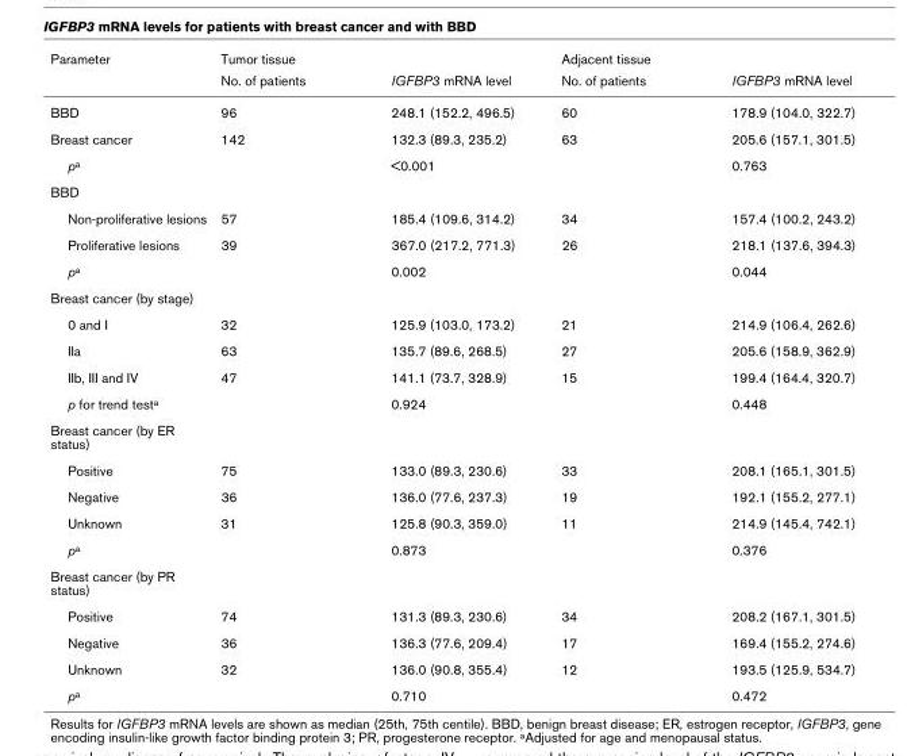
<table><thead><tr><td rowspan="2">Parameter</td><td colspan="2">Tumor tissue</td><td colspan="2">Adjacent tissue</td></tr><tr><td>No. of patients</td><td>IGFBP3 mRNA level</td><td>No. of patients</td><td>IGFBP3 mRNA level</td></tr></thead><tbody><tr><td>BBD</td><td>96</td><td>248.1 (152.2, 496.5)</td><td>60</td><td>178.9 (104.0, 322.7)</td></tr><tr><td>Breast cancer</td><td>142</td><td>132.3 (89.3, 235.2)</td><td>63</td><td>205.6 (157.1, 301.5)</td></tr><tr><td>pa</td><td></td><td>&lt;0.001</td><td></td><td>0.763</td></tr><tr><td colspan="5">BBD</td></tr><tr><td>Non-proliferative lesions</td><td>57</td><td>185.4 (109.6, 314.2)</td><td>34</td><td>157.4 (100.2, 243.2)</td></tr><tr><td>Proliferative lesions</td><td>39</td><td>367.0 (217.2, 771.3)</td><td>26</td><td>218.1 (137.6, 394.3)</td></tr><tr><td>pa</td><td></td><td>0.002</td><td></td><td>0.044</td></tr><tr><td colspan="5">Breast cancer (by stage)</td></tr><tr><td>0 and I</td><td>32</td><td>125.9 (103.0, 173.2)</td><td>21</td><td>214.9 (106.4, 262.6)</td></tr><tr><td>IIa</td><td>63</td><td>135.7 (89.6, 268.5)</td><td>27</td><td>205.6 (158.9, 362.9)</td></tr><tr><td>IIb, III and IV</td><td>47</td><td>141.1 (73.7, 328.9)</td><td>15</td><td>199.4 (164.4, 320.7)</td></tr><tr><td>p for trend testa</td><td></td><td>0.924</td><td></td><td>0.448</td></tr><tr><td colspan="5">Breast cancer (by ER status)</td></tr><tr><td>Positive</td><td>75</td><td>133.0 (89.3, 230.6)</td><td>33</td><td>208.1 (165.1, 301.5)</td></tr><tr><td>Negative</td><td>36</td><td>136.0 (77.6, 237.3)</td><td>19</td><td>192.1 (155.2, 277.1)</td></tr><tr><td>Unknown</td><td>31</td><td>125.8 (90.3, 359.0)</td><td>11</td><td>214.9 (145.4, 742.1)</td></tr><tr><td>pa</td><td></td><td>0.873</td><td></td><td>0.376</td></tr><tr><td colspan="5">Breast cancer (by PR status)</td></tr><tr><td>Positive</td><td>74</td><td>131.3 (89.3, 230.6)</td><td>34</td><td>208.2 (167.1, 301.5)</td></tr><tr><td>Negative</td><td>36</td><td>136.3 (77.6, 209.4)</td><td>17</td><td>169.4 (155.2, 274.6)</td></tr><tr><td>Unknown</td><td>32</td><td>136.0 (90.8, 355.4)</td><td>12</td><td>193.5 (125.9, 534.7)</td></tr><tr><td>pa</td><td></td><td>0.710</td><td></td><td>0.472</td></tr></tbody></table>